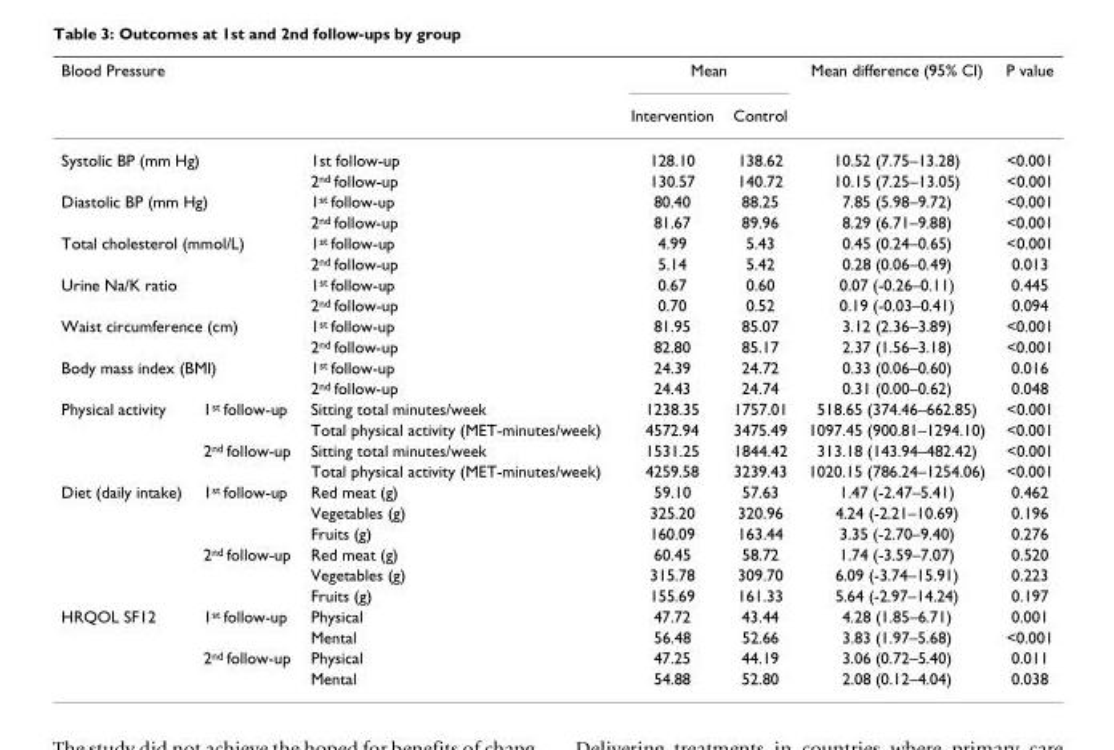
<table><thead><tr><td colspan="3">Blood Pressure</td><td colspan="2">Mean</td><td rowspan="2">Mean difference (95% CI)</td><td rowspan="2">P value</td></tr><tr><td></td><td></td><td></td><td>Intervention</td><td>Control</td></tr></thead><tbody><tr><td colspan="2">Systolic BP (mm Hg)</td><td>1st follow-up</td><td>128.10</td><td>138.62</td><td>10.52 (7.75–13.28)</td><td>&lt;0.001</td></tr><tr><td></td><td></td><td>2<sup>nd</sup> follow-up</td><td>130.57</td><td>140.72</td><td>10.15 (7.25–13.05)</td><td>&lt;0.001</td></tr><tr><td colspan="2">Diastolic BP (mm Hg)</td><td>1<sup>st</sup> follow-up</td><td>80.40</td><td>88.25</td><td>7.85 (5.98–9.72)</td><td>&lt;0.001</td></tr><tr><td></td><td></td><td>2<sup>nd</sup> follow-up</td><td>81.67</td><td>89.96</td><td>8.29 (6.71–9.88)</td><td>&lt;0.001</td></tr><tr><td colspan="2">Total cholesterol (mmol/L)</td><td>1<sup>st</sup> follow-up</td><td>4.99</td><td>5.43</td><td>0.45 (0.24–0.65)</td><td>&lt;0.001</td></tr><tr><td></td><td></td><td>2<sup>nd</sup> follow-up</td><td>5.14</td><td>5.42</td><td>0.28 (0.06–0.49)</td><td>0.013</td></tr><tr><td colspan="2">Urine Na/K ratio</td><td>1<sup>st</sup> follow-up</td><td>0.67</td><td>0.60</td><td>0.07 (-0.26–0.11)</td><td>0.445</td></tr><tr><td></td><td></td><td>2<sup>nd</sup> follow-up</td><td>0.70</td><td>0.52</td><td>0.19 (-0.03–0.41)</td><td>0.094</td></tr><tr><td colspan="2">Waist circumference (cm)</td><td>1<sup>st</sup> follow-up</td><td>81.95</td><td>85.07</td><td>3.12 (2.36–3.89)</td><td>&lt;0.001</td></tr><tr><td></td><td></td><td>2<sup>nd</sup> follow-up</td><td>82.80</td><td>85.17</td><td>2.37 (1.56–3.18)</td><td>&lt;0.001</td></tr><tr><td colspan="2">Body mass index (BMI)</td><td>1<sup>st</sup> follow-up</td><td>24.39</td><td>24.72</td><td>0.33 (0.06–0.60)</td><td>0.016</td></tr><tr><td></td><td></td><td>2<sup>nd</sup> follow-up</td><td>24.43</td><td>24.74</td><td>0.31 (0.00–0.62)</td><td>0.048</td></tr><tr><td rowspan="4">Physical activity</td><td>1<sup>st</sup> follow-up</td><td>Sitting total minutes/week</td><td>1238.35</td><td>1757.01</td><td>518.65 (374.46–662.85)</td><td>&lt;0.001</td></tr><tr><td></td><td>Total physical activity (MET-minutes/week)</td><td>4572.94</td><td>3475.49</td><td>1097.45 (900.81–1294.10)</td><td>&lt;0.001</td></tr><tr><td>2<sup>nd</sup> follow-up</td><td>Sitting total minutes/week</td><td>1531.25</td><td>1844.42</td><td>313.18 (143.94–482.42)</td><td>&lt;0.001</td></tr><tr><td></td><td>Total physical activity (MET-minutes/week)</td><td>4259.58</td><td>3239.43</td><td>1020.15 (786.24–1254.06)</td><td>&lt;0.001</td></tr><tr><td rowspan="6">Diet (daily intake)</td><td>1<sup>st</sup> follow-up</td><td>Red meat (g)</td><td>59.10</td><td>57.63</td><td>1.47 (-2.47–5.41)</td><td>0.462</td></tr><tr><td></td><td>Vegetables (g)</td><td>325.20</td><td>320.96</td><td>4.24 (-2.21–10.69)</td><td>0.196</td></tr><tr><td></td><td>Fruits (g)</td><td>160.09</td><td>163.44</td><td>3.35 (-2.70–9.40)</td><td>0.276</td></tr><tr><td>2<sup>nd</sup> follow-up</td><td>Red meat (g)</td><td>60.45</td><td>58.72</td><td>1.74 (-3.59–7.07)</td><td>0.520</td></tr><tr><td></td><td>Vegetables (g)</td><td>315.78</td><td>309.70</td><td>6.09 (-3.74–15.91)</td><td>0.223</td></tr><tr><td></td><td>Fruits (g)</td><td>155.69</td><td>161.33</td><td>5.64 (-2.97–14.24)</td><td>0.197</td></tr><tr><td rowspan="4">HRQOL SF12</td><td>1<sup>st</sup> follow-up</td><td>Physical</td><td>47.72</td><td>43.44</td><td>4.28 (1.85–6.71)</td><td>0.001</td></tr><tr><td></td><td>Mental</td><td>56.48</td><td>52.66</td><td>3.83 (1.97–5.68)</td><td>&lt;0.001</td></tr><tr><td>2<sup>nd</sup> follow-up</td><td>Physical</td><td>47.25</td><td>44.19</td><td>3.06 (0.72–5.40)</td><td>0.011</td></tr><tr><td></td><td>Mental</td><td>54.88</td><td>52.80</td><td>2.08 (0.12–4.04)</td><td>0.038</td></tr></tbody></table>